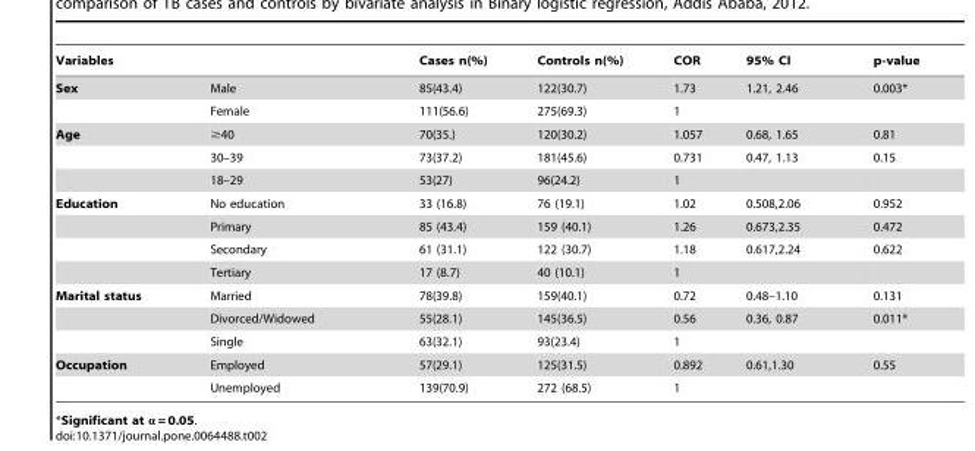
<table><thead><tr><td colspan="2">Variables</td><td rowspan="2">Cases n(%) 85(43.4)</td><td rowspan="2">Controls n(%) 122(30.7)</td><td rowspan="2">COR 1.73</td><td rowspan="2">95% CI 1.21, 2.46</td><td rowspan="2">p-value 0.003*</td></tr><tr><td>Sex</td><td>Male</td></tr></thead><tbody><tr><td></td><td>Female</td><td>111(56.6)</td><td>275(69.3)</td><td>1</td><td></td><td></td></tr><tr><td rowspan="3">Age</td><td>≥40</td><td>70(35.)</td><td>120(30.2)</td><td>1.057</td><td>0.68, 1.65</td><td>0.81</td></tr><tr><td>30–39</td><td>73(37.2)</td><td>181(45.6)</td><td>0.731</td><td>0.47, 1.13</td><td>0.15</td></tr><tr><td>18–29</td><td>53(27)</td><td>96(24.2)</td><td>1</td><td></td><td></td></tr><tr><td rowspan="4">Education</td><td>No education</td><td>33 (16.8)</td><td>76 (19.1)</td><td>1.02</td><td>0.508,2.06</td><td>0.952</td></tr><tr><td>Primary</td><td>85 (43.4)</td><td>159 (40.1)</td><td>1.26</td><td>0.673,2.35</td><td>0.472</td></tr><tr><td>Secondary</td><td>61 (31.1)</td><td>122 (30.7)</td><td>1.18</td><td>0.617,2.24</td><td>0.622</td></tr><tr><td>Tertiary</td><td>17 (8.7)</td><td>40 (10.1)</td><td>1</td><td></td><td></td></tr><tr><td rowspan="3">Marital status</td><td>Married</td><td>78(39.8)</td><td>159(40.1)</td><td>0.72</td><td>0.48–1.10</td><td>0.131</td></tr><tr><td>Divorced/Widowed</td><td>55(28.1)</td><td>145(36.5)</td><td>0.56</td><td>0.36, 0.87</td><td>0.011*</td></tr><tr><td>Single</td><td>63(32.1)</td><td>93(23.4)</td><td>1</td><td></td><td></td></tr><tr><td rowspan="2">Occupation</td><td>Employed</td><td>57(29.1)</td><td>125(31.5)</td><td>0.892</td><td>0.61,1.30</td><td>0.55</td></tr><tr><td>Unemployed</td><td>139(70.9)</td><td>272 (68.5)</td><td>1</td><td></td><td></td></tr></tbody></table>